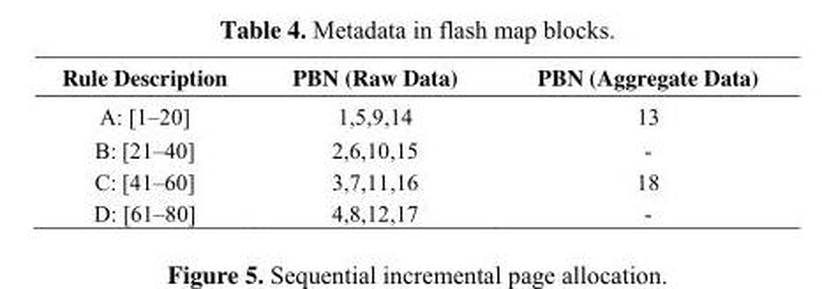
<table><thead><tr><td>Rule Description</td><td>PBN (Raw Data)</td><td>PBN (Aggregate Data)</td></tr></thead><tbody><tr><td>A: [1–20]</td><td>1,5,9,14</td><td>13</td></tr><tr><td>B: [21–40]</td><td>2,6,10,15</td><td>-</td></tr><tr><td>C: [41–60]</td><td>3,7,11,16</td><td>18</td></tr><tr><td>D: [61–80]</td><td>4,8,12,17</td><td>-</td></tr></tbody></table>